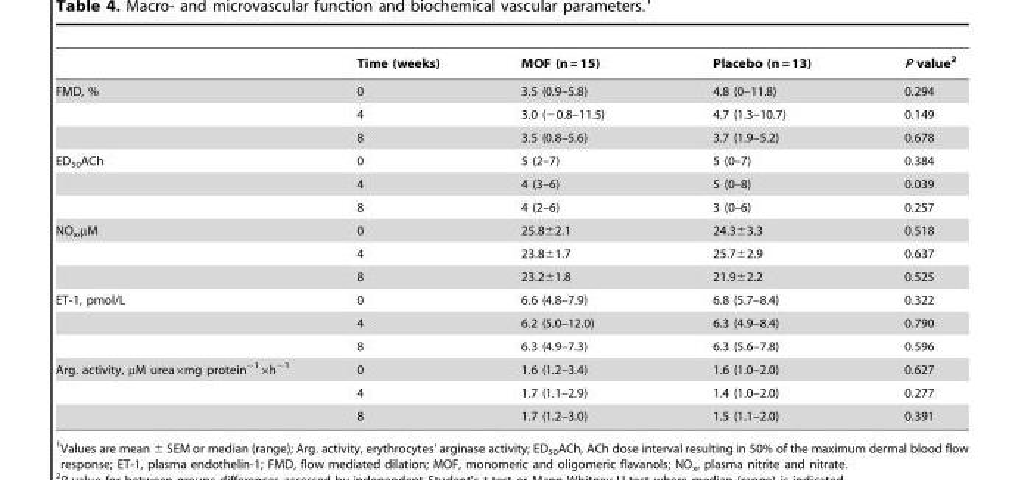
<table><thead><tr><td></td><td>Time (weeks)</td><td>MOF (n = 15)</td><td>Placebo (n = 13)</td><td>P value<sup>2</sup></td></tr></thead><tbody><tr><td rowspan="3">FMD, %</td><td>0</td><td>3.5 (0.9–5.8)</td><td>4.8 (0–11.8)</td><td>0.294</td></tr><tr><td>4</td><td>3.0 (−0.8–11.5)</td><td>4.7 (1.3–10.7)</td><td>0.149</td></tr><tr><td>8</td><td>3.5 (0.8–5.6)</td><td>3.7 (1.9–5.2)</td><td>0.678</td></tr><tr><td rowspan="3">ED<sub>50</sub>ACh</td><td>0</td><td>5 (2–7)</td><td>5 (0–7)</td><td>0.384</td></tr><tr><td>4</td><td>4 (3–6)</td><td>5 (0–8)</td><td>0.039</td></tr><tr><td>8</td><td>4 (2–6)</td><td>3 (0–6)</td><td>0.257</td></tr><tr><td rowspan="3">NO<sub>x</sub>,µM</td><td>0</td><td>25.8±2.1</td><td>24.3±3.3</td><td>0.518</td></tr><tr><td>4</td><td>23.8±1.7</td><td>25.7±2.9</td><td>0.637</td></tr><tr><td>8</td><td>23.2±1.8</td><td>21.9±2.2</td><td>0.525</td></tr><tr><td rowspan="3">ET-1, pmol/L</td><td>0</td><td>6.6 (4.8–7.9)</td><td>6.8 (5.7–8.4)</td><td>0.322</td></tr><tr><td>4</td><td>6.2 (5.0–12.0)</td><td>6.3 (4.9–8.4)</td><td>0.790</td></tr><tr><td>8</td><td>6.3 (4.9–7.3)</td><td>6.3 (5.6–7.8)</td><td>0.596</td></tr><tr><td rowspan="3">Arg. activity, µM urea×mg protein<sup>−1</sup>×h<sup>−1</sup></td><td>0</td><td>1.6 (1.2–3.4)</td><td>1.6 (1.0–2.0)</td><td>0.627</td></tr><tr><td>4</td><td>1.7 (1.1–2.9)</td><td>1.4 (1.0–2.0)</td><td>0.277</td></tr><tr><td>8</td><td>1.7 (1.2–3.0)</td><td>1.5 (1.1–2.0)</td><td>0.391</td></tr></tbody></table>